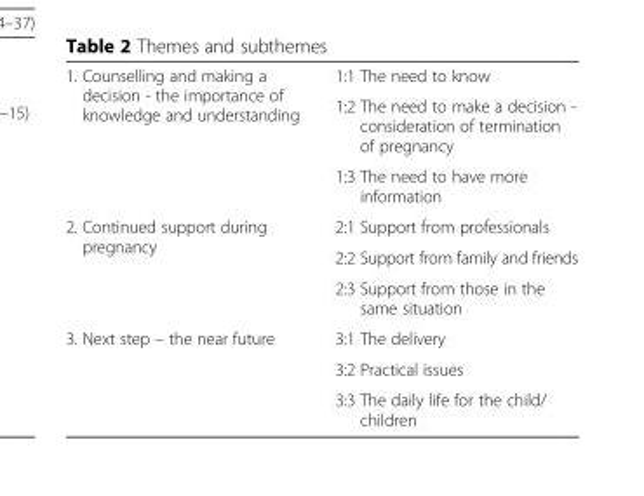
<table><tbody><tr><td rowspan="3">1. Counselling and making a decision - the importance of knowledge and understanding</td><td>1:1 The need to know</td></tr><tr><td>1:2 The need to make a decision - consideration of termination of pregnancy</td></tr><tr><td>1:3 The need to have more information</td></tr><tr><td rowspan="3">2. Continued support during pregnancy</td><td>2:1 Support from professionals</td></tr><tr><td>2:2 Support from family and friends</td></tr><tr><td>2:3 Support from those in the same situation</td></tr><tr><td rowspan="3">3. Next step – the near future</td><td>3:1 The delivery</td></tr><tr><td>3:2 Practical issues</td></tr><tr><td>3:3 The daily life for the child/ children</td></tr></tbody></table>